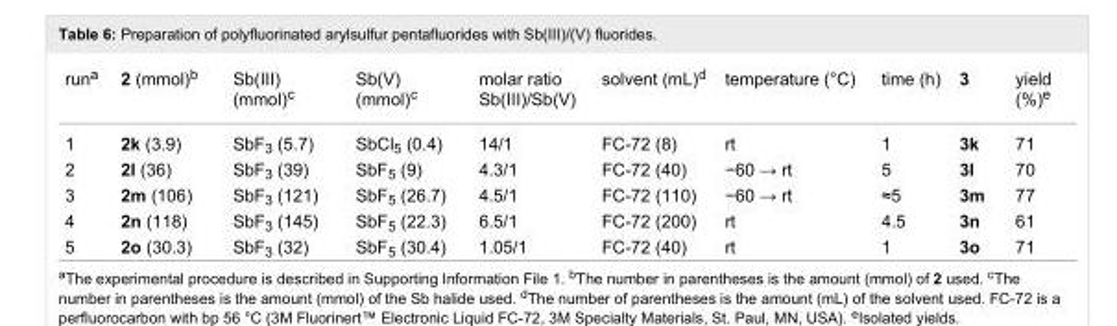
<table><tbody><tr><td>run<sup>a</sup></td><td>2 (mmol)<sup>b</sup></td><td>Sb(III) (mmol)<sup>c</sup></td><td>Sb(V) (mmol)<sup>c</sup></td><td>molar ratio Sb(III)/Sb(V)</td><td>solvent (mL)<sup>d</sup></td><td>temperature (°C)</td><td>time (h)</td><td>3</td><td>yield (%)<sup>e</sup></td></tr><tr><td>1</td><td>2k (3.9)</td><td>SbF<sub>3</sub> (5.7)</td><td>SbCl<sub>5</sub> (0.4)</td><td>14/1</td><td>FC-72 (8)</td><td>rt</td><td>1</td><td>3k</td><td>71</td></tr><tr><td>2</td><td>2l (36)</td><td>SbF<sub>3</sub> (39)</td><td>SbF<sub>5</sub> (9)</td><td>4.3/1</td><td>FC-72 (40)</td><td>−60 → rt</td><td>5</td><td>3l</td><td>70</td></tr><tr><td>3</td><td>2m (106)</td><td>SbF<sub>3</sub> (121)</td><td>SbF<sub>5</sub> (26.7)</td><td>4.5/1</td><td>FC-72 (110)</td><td>−60 → rt</td><td>≈5</td><td>3m</td><td>77</td></tr><tr><td>4</td><td>2n (118)</td><td>SbF<sub>3</sub> (145)</td><td>SbF<sub>5</sub> (22.3)</td><td>6.5/1</td><td>FC-72 (200)</td><td>rt</td><td>4.5</td><td>3n</td><td>61</td></tr><tr><td>5</td><td>2o (30.3)</td><td>SbF<sub>3</sub> (32)</td><td>SbF<sub>5</sub> (30.4)</td><td>1.05/1</td><td>FC-72 (40)</td><td>rt</td><td>1</td><td>3o</td><td>71</td></tr></tbody></table>